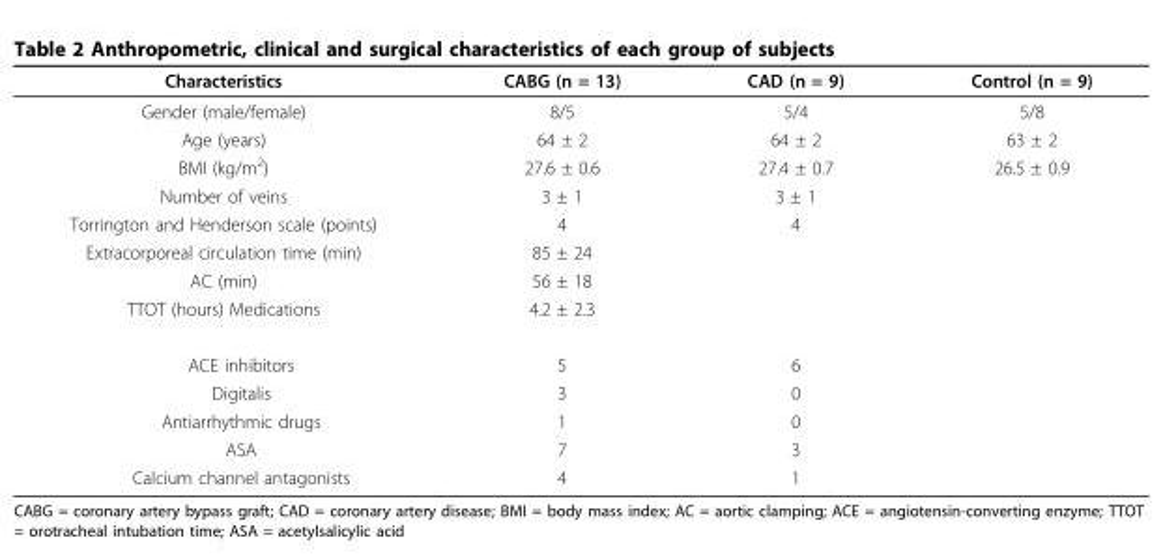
<table><thead><tr><td>Characteristics</td><td>CABG (n = 13)</td><td>CAD (n = 9)</td><td>Control (n = 9)</td></tr></thead><tbody><tr><td>Gender (male/female)</td><td>8/5</td><td>5/4</td><td>5/8</td></tr><tr><td>Age (years)</td><td>64 ± 2</td><td>64 ± 2</td><td>63 ± 2</td></tr><tr><td>BMI (kg/m<sup>2</sup>)</td><td>27.6 ± 0.6</td><td>27.4 ± 0.7</td><td>26.5 ± 0.9</td></tr><tr><td>Number of veins</td><td>3 ± 1</td><td>3 ± 1</td><td></td></tr><tr><td>Torrington and Henderson scale (points)</td><td>4</td><td>4</td><td></td></tr><tr><td>Extracorporeal circulation time (min)</td><td>85 ± 24</td><td></td><td></td></tr><tr><td>AC (min)</td><td>56 ± 18</td><td></td><td></td></tr><tr><td>TTOT (hours) Medications</td><td>4.2 ± 2.3</td><td></td><td></td></tr><tr><td>ACE inhibitors</td><td>5</td><td>6</td><td></td></tr><tr><td>Digitalis</td><td>3</td><td>0</td><td></td></tr><tr><td>Antiarrhythmic drugs</td><td>1</td><td>0</td><td></td></tr><tr><td>ASA</td><td>7</td><td>3</td><td></td></tr><tr><td>Calcium channel antagonists</td><td>4</td><td>1</td><td></td></tr></tbody></table>